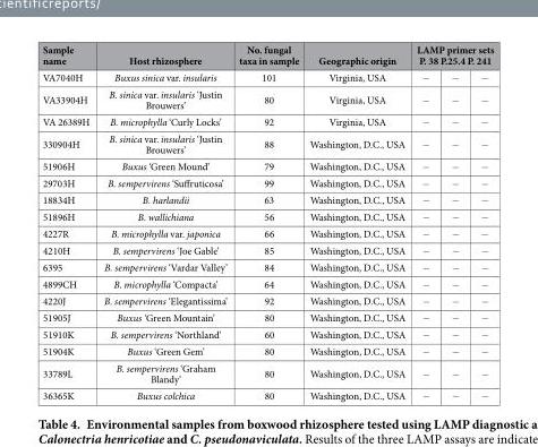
<table><thead><tr><td rowspan="2">Sample name VA7040H</td><td rowspan="2">Host rhizosphere Buxus sinica var. insularis</td><td rowspan="2">No. fungal taxa in sample 101</td><td rowspan="2">Geographic origin Virginia, USA</td><td colspan="3">LAMP primer sets P. 38 P.25.4 P. 241</td></tr><tr><td>−</td><td>−</td><td>−</td></tr></thead><tbody><tr><td>VA33904H</td><td>B. sinica var. insularis ‘Justin Brouwers’</td><td>80</td><td>Virginia, USA</td><td>−</td><td>−</td><td>−</td></tr><tr><td>VA 26389H</td><td>B. microphylla ‘Curly Locks’</td><td>92</td><td>Virginia, USA</td><td>−</td><td>−</td><td>−</td></tr><tr><td>330904H</td><td>B. sinica var. insularis ‘Justin Brouwers’</td><td>88</td><td>Washington, D.C., USA</td><td>−</td><td>−</td><td>−</td></tr><tr><td>51906H</td><td>Buxus ‘Green Mound’</td><td>79</td><td>Washington, D.C., USA</td><td>−</td><td>−</td><td>−</td></tr><tr><td>29703H</td><td>B. sempervirens ‘Suffruticosa’</td><td>99</td><td>Washington, D.C., USA</td><td>−</td><td>−</td><td>−</td></tr><tr><td>18834H</td><td>B. harlandii</td><td>63</td><td>Washington, D.C., USA</td><td>−</td><td>−</td><td>−</td></tr><tr><td>51896H</td><td>B. wallichiana</td><td>56</td><td>Washington, D.C., USA</td><td>−</td><td>−</td><td>−</td></tr><tr><td>4227R</td><td>B. microphylla var. japonica</td><td>66</td><td>Washington, D.C., USA</td><td>−</td><td>−</td><td>−</td></tr><tr><td>4210H</td><td>B. sempervirens ‘Joe Gable’</td><td>85</td><td>Washington, D.C., USA</td><td>−</td><td>−</td><td>−</td></tr><tr><td>6395</td><td>B. sempervirens ‘Vardar Valley’</td><td>84</td><td>Washington, D.C., USA</td><td>−</td><td>−</td><td>−</td></tr><tr><td>4899CH</td><td>B. microphylla ‘Compacta’</td><td>64</td><td>Washington, D.C., USA</td><td>−</td><td>−</td><td>−</td></tr><tr><td>4220J</td><td>B. sempervirens ‘Elegantissima’</td><td>92</td><td>Washington, D.C., USA</td><td>−</td><td>−</td><td>−</td></tr><tr><td>51905J</td><td>Buxus ‘Green Mountain’</td><td>80</td><td>Washington, D.C., USA</td><td>−</td><td>−</td><td>−</td></tr><tr><td>51910K</td><td>B. sempervirens ‘Northland’</td><td>60</td><td>Washington, D.C., USA</td><td>−</td><td>−</td><td>−</td></tr><tr><td>51904K</td><td>Buxus ‘Green Gem’</td><td>80</td><td>Washington, D.C., USA</td><td>−</td><td>−</td><td>−</td></tr><tr><td>33789L</td><td>B. sempervirens ‘Graham Blandy’</td><td>80</td><td>Washington, D.C., USA</td><td>−</td><td>−</td><td>−</td></tr><tr><td>36365K</td><td>Buxus colchica</td><td>80</td><td>Washington, D.C., USA</td><td>−</td><td>−</td><td>−</td></tr></tbody></table>